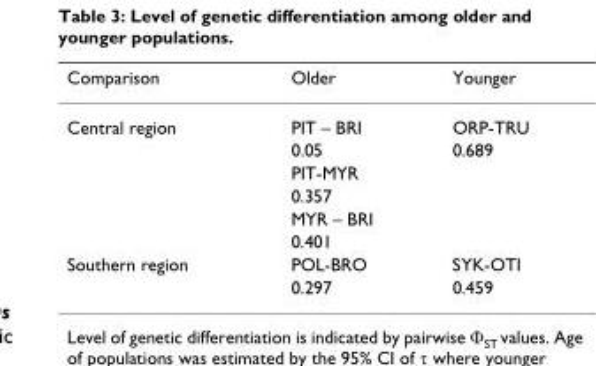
<table><thead><tr><td>Comparison</td><td>Older</td><td>Younger</td></tr></thead><tbody><tr><td rowspan="6">Central region</td><td>PIT – BRI</td><td>ORP-TRU</td></tr><tr><td>0.05</td><td>0.689</td></tr><tr><td>PIT-MYR</td><td></td></tr><tr><td>0.357</td><td></td></tr><tr><td>MYR – BRI</td><td></td></tr><tr><td>0.401</td><td></td></tr><tr><td rowspan="2">Southern region</td><td>POL-BRO</td><td>SYK-OTI</td></tr><tr><td>0.297</td><td>0.459</td></tr></tbody></table>